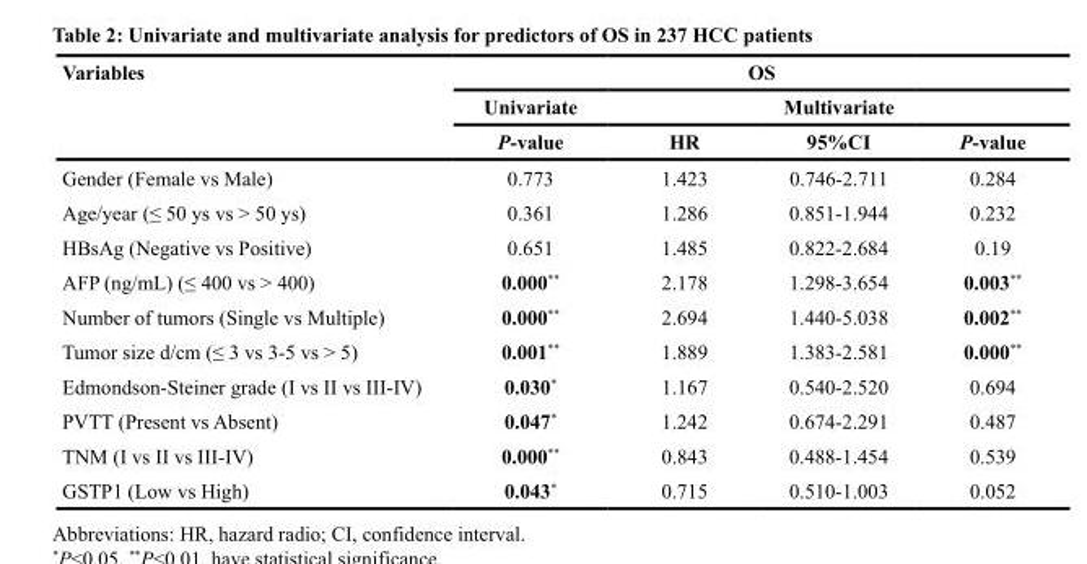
<table><thead><tr><td rowspan="3">Variables</td><td colspan="4">OS</td></tr><tr><td rowspan="2">Univariate P-value</td><td colspan="3">Multivariate</td></tr><tr><td>HR</td><td>95%CI</td><td>P-value</td></tr></thead><tbody><tr><td>Gender (Female vs Male)</td><td>0.773</td><td>1.423</td><td>0.746-2.711</td><td>0.284</td></tr><tr><td>Age/year (≤ 50 ys vs &gt; 50 ys)</td><td>0.361</td><td>1.286</td><td>0.851-1.944</td><td>0.232</td></tr><tr><td>HBsAg (Negative vs Positive)</td><td>0.651</td><td>1.485</td><td>0.822-2.684</td><td>0.19</td></tr><tr><td>AFP (ng/mL) (≤ 400 vs &gt; 400)</td><td>0.000**</td><td>2.178</td><td>1.298-3.654</td><td>0.003**</td></tr><tr><td>Number of tumors (Single vs Multiple)</td><td>0.000**</td><td>2.694</td><td>1.440-5.038</td><td>0.002**</td></tr><tr><td>Tumor size d/cm (≤ 3 vs 3-5 vs &gt; 5)</td><td>0.001**</td><td>1.889</td><td>1.383-2.581</td><td>0.000**</td></tr><tr><td>Edmondson-Steiner grade (I vs II vs III-IV)</td><td>0.030*</td><td>1.167</td><td>0.540-2.520</td><td>0.694</td></tr><tr><td>PVTT (Present vs Absent)</td><td>0.047*</td><td>1.242</td><td>0.674-2.291</td><td>0.487</td></tr><tr><td>TNM (I vs II vs III-IV)</td><td>0.000**</td><td>0.843</td><td>0.488-1.454</td><td>0.539</td></tr><tr><td>GSTP1 (Low vs High)</td><td>0.043*</td><td>0.715</td><td>0.510-1.003</td><td>0.052</td></tr></tbody></table>